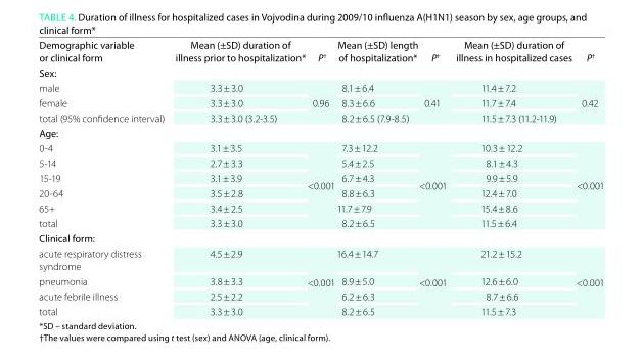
<table><thead><tr><td>Demographic variable or clinical form</td><td>Mean (±SD) duration of illness prior to hospitalization*</td><td>P<sup>†</sup></td><td>Mean (±SD) length of hospitalization*</td><td>P<sup>†</sup></td><td>Mean (±SD) duration of illness in hospitalized cases</td><td>P<sup>†</sup></td></tr></thead><tbody><tr><td colspan="7">Sex:</td></tr><tr><td>male</td><td>3.3 ± 3.0</td><td rowspan="3">0.96</td><td>8.1 ± 6.4</td><td rowspan="3">0.41</td><td>11.4 ± 7.2</td><td rowspan="3">0.42</td></tr><tr><td>female</td><td>3.3 ± 3.0</td><td>8.3 ± 6.6</td><td>11.7 ± 7.4</td></tr><tr><td>total (95% confidence interval)</td><td>3.3 ± 3.0 (3.2-3.5)</td><td>8.2 ± 6.5 (7.9-8.5)</td><td>11.5 ± 7.3 (11.2-11.9)</td></tr><tr><td colspan="7">Age:</td></tr><tr><td>0-4</td><td>3.1 ± 3.5</td><td rowspan="6">&lt;0.001</td><td>7.3 ± 12.2</td><td rowspan="6">&lt;0.001</td><td>10.3 ± 12.2</td><td rowspan="6">&lt;0.001</td></tr><tr><td>5-14</td><td>2.7 ± 3.3</td><td>5.4 ± 2.5</td><td>8.1 ± 4.3</td></tr><tr><td>15-19</td><td>3.1 ± 3.9</td><td>6.7 ± 4.3</td><td>9.9 ± 5.9</td></tr><tr><td>20-64</td><td>3.5 ± 2.8</td><td>8.8 ± 6.3</td><td>12.4 ± 7.0</td></tr><tr><td>65+</td><td>3.4 ± 2.5</td><td>11.7 ± 7.9</td><td>15.4 ± 8.6</td></tr><tr><td>total</td><td>3.3 ± 3.0</td><td>8.2 ± 6.5</td><td>11.5 ± 6.4</td></tr><tr><td colspan="7">Clinical form:</td></tr><tr><td>acute respiratory distress syndrome</td><td>4.5 ± 2.9</td><td rowspan="4">&lt;0.001</td><td>16.4 ± 14.7</td><td rowspan="4">&lt;0.001</td><td>21.2 ± 15.2</td><td rowspan="4">&lt;0.001</td></tr><tr><td>pneumonia</td><td>3.8 ± 3.3</td><td>8.9 ± 5.0</td><td>12.6 ± 6.0</td></tr><tr><td>acute febrile illness</td><td>2.5 ± 2.2</td><td>6.2 ± 6.3</td><td>8.7 ± 6.6</td></tr><tr><td>total</td><td>3.3 ± 3.0</td><td>8.2 ± 6.5</td><td>11.5 ± 7.3</td></tr></tbody></table>